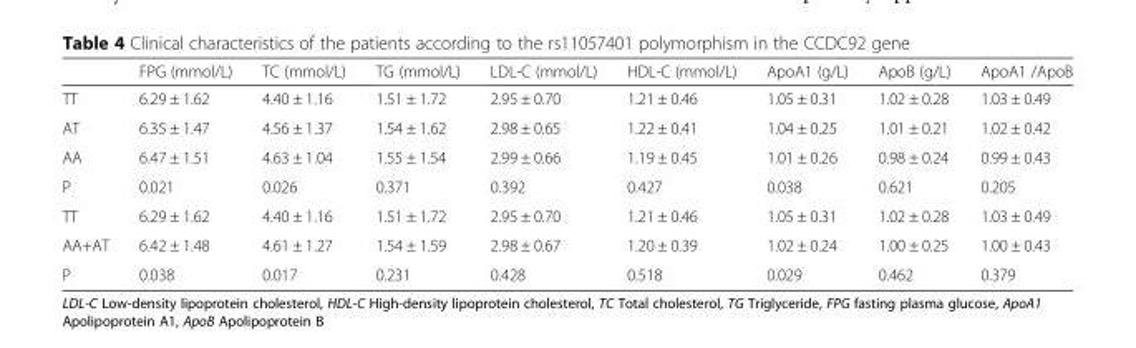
<table><thead><tr><td></td><td>FPG (mmol/L)</td><td>TC (mmol/L)</td><td>TG (mmol/L)</td><td>LDL-C (mmol/L)</td><td>HDL-C (mmol/L)</td><td>ApoA1 (g/L)</td><td>ApoB (g/L)</td><td>ApoA1 /ApoB</td></tr></thead><tbody><tr><td>TT</td><td>6.29 ± 1.62</td><td>4.40 ± 1.16</td><td>1.51 ± 1.72</td><td>2.95 ± 0.70</td><td>1.21 ± 0.46</td><td>1.05 ± 0.31</td><td>1.02 ± 0.28</td><td>1.03 ± 0.49</td></tr><tr><td>AT</td><td>6.35 ± 1.47</td><td>4.56 ± 1.37</td><td>1.54 ± 1.62</td><td>2.98 ± 0.65</td><td>1.22 ± 0.41</td><td>1.04 ± 0.25</td><td>1.01 ± 0.21</td><td>1.02 ± 0.42</td></tr><tr><td>AA</td><td>6.47 ± 1.51</td><td>4.63 ± 1.04</td><td>1.55 ± 1.54</td><td>2.99 ± 0.66</td><td>1.19 ± 0.45</td><td>1.01 ± 0.26</td><td>0.98 ± 0.24</td><td>0.99 ± 0.43</td></tr><tr><td>P</td><td>0.021</td><td>0.026</td><td>0.371</td><td>0.392</td><td>0.427</td><td>0.038</td><td>0.621</td><td>0.205</td></tr><tr><td>TT</td><td>6.29 ± 1.62</td><td>4.40 ± 1.16</td><td>1.51 ± 1.72</td><td>2.95 ± 0.70</td><td>1.21 ± 0.46</td><td>1.05 ± 0.31</td><td>1.02 ± 0.28</td><td>1.03 ± 0.49</td></tr><tr><td>AA+AT</td><td>6.42 ± 1.48</td><td>4.61 ± 1.27</td><td>1.54 ± 1.59</td><td>2.98 ± 0.67</td><td>1.20 ± 0.39</td><td>1.02 ± 0.24</td><td>1.00 ± 0.25</td><td>1.00 ± 0.43</td></tr><tr><td>P</td><td>0.038</td><td>0.017</td><td>0.231</td><td>0.428</td><td>0.518</td><td>0.029</td><td>0.462</td><td>0.379</td></tr></tbody></table>